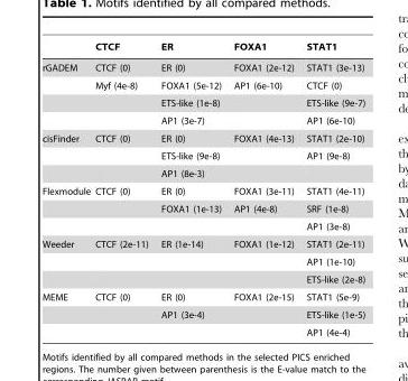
<table><thead><tr><td></td><td>CTCF</td><td>ER</td><td>FOXA1</td><td>STAT1</td></tr></thead><tbody><tr><td rowspan="4">rGADEM</td><td>CTCF (0)</td><td>ER (0)</td><td>FOXA1 (2e-12)</td><td>STAT1 (3e-13)</td></tr><tr><td>Myf (4e-8)</td><td>FOXA1 (5e-12)</td><td>AP1 (6e-10)</td><td>CTCF (0)</td></tr><tr><td></td><td>ETS-like (1e-8)</td><td></td><td>ETS-like (9e-7)</td></tr><tr><td></td><td>AP1 (3e-7)</td><td></td><td>AP1 (6e-10)</td></tr><tr><td rowspan="3">cisFinder</td><td>CTCF (0)</td><td>ER (0)</td><td>FOXA1 (4e-13)</td><td>STAT1 (2e-10)</td></tr><tr><td></td><td>ETS-like (9e-8)</td><td></td><td>AP1 (9e-8)</td></tr><tr><td></td><td>AP1 (8e-3)</td><td></td><td></td></tr><tr><td rowspan="3">Flexmodule</td><td>CTCF (0)</td><td>ER (0)</td><td>FOXA1 (3e-11)</td><td>STAT1 (4e-11)</td></tr><tr><td></td><td>FOXA1 (1e-13)</td><td>AP1 (4e-8)</td><td>SRF (1e-8)</td></tr><tr><td></td><td></td><td></td><td>AP1 (3e-8)</td></tr><tr><td rowspan="3">Weeder</td><td>CTCF (2e-11)</td><td>ER (1e-14)</td><td>FOXA1 (1e-12)</td><td>STAT1 (2e-11)</td></tr><tr><td></td><td></td><td></td><td>AP1 (1e-10)</td></tr><tr><td></td><td></td><td></td><td>ETS-like (2e-8)</td></tr><tr><td rowspan="3">MEME</td><td>CTCF (0)</td><td>ER (0)</td><td>FOXA1 (2e-15)</td><td>STAT1 (5e-9)</td></tr><tr><td></td><td>AP1 (3e-4)</td><td></td><td>ETS-like (1e-5)</td></tr><tr><td></td><td></td><td></td><td>AP1 (4e-4)</td></tr></tbody></table>